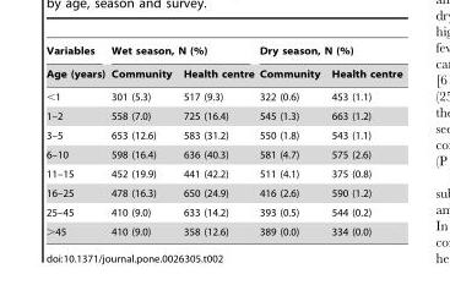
<table><thead><tr><td rowspan="2">Variables Age (years)</td><td colspan="2">Wet season, N (%)</td><td colspan="2">Dry season, N (%)</td></tr><tr><td>Community</td><td>Health centre</td><td>Community</td><td>Health centre</td></tr></thead><tbody><tr><td>&lt;1</td><td>301 (5.3)</td><td>517 (9.3)</td><td>322 (0.6)</td><td>453 (1.1)</td></tr><tr><td>1–2</td><td>558 (7.0)</td><td>725 (16.4)</td><td>545 (1.3)</td><td>663 (1.2)</td></tr><tr><td>3–5</td><td>653 (12.6)</td><td>583 (31.2)</td><td>550 (1.8)</td><td>543 (1.1)</td></tr><tr><td>6–10</td><td>598 (16.4)</td><td>636 (40.3)</td><td>581 (4.7)</td><td>575 (2.6)</td></tr><tr><td>11–15</td><td>452 (19.9)</td><td>441 (42.2)</td><td>511 (4.1)</td><td>375 (0.8)</td></tr><tr><td>16–25</td><td>478 (16.3)</td><td>650 (24.9)</td><td>416 (2.6)</td><td>590 (1.2)</td></tr><tr><td>25–45</td><td>410 (9.0)</td><td>633 (14.2)</td><td>393 (0.5)</td><td>544 (0.2)</td></tr><tr><td>&gt;45</td><td>410 (9.0)</td><td>358 (12.6)</td><td>389 (0.0)</td><td>334 (0.0)</td></tr></tbody></table>